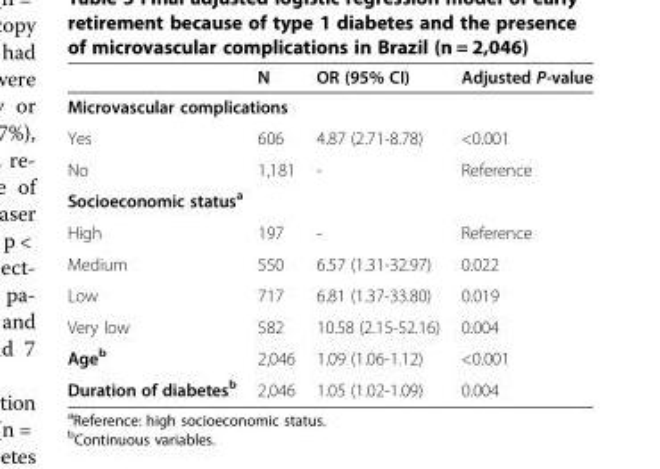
<table><thead><tr><td></td><td>N</td><td>OR (95% CI)</td><td>Adjusted P-value</td></tr></thead><tbody><tr><td colspan="4">Microvascular complications</td></tr><tr><td>Yes</td><td>606</td><td>4.87 (2.71-8.78)</td><td>&lt;0.001</td></tr><tr><td>No</td><td>1,181</td><td>-</td><td>Reference</td></tr><tr><td colspan="4">Socioeconomic status<sup>a</sup></td></tr><tr><td>High</td><td>197</td><td>-</td><td>Reference</td></tr><tr><td>Medium</td><td>550</td><td>6.57 (1.31-32.97)</td><td>0.022</td></tr><tr><td>Low</td><td>717</td><td>6.81 (1.37-33.80)</td><td>0.019</td></tr><tr><td>Very low</td><td>582</td><td>10.58 (2.15-52.16)</td><td>0.004</td></tr><tr><td>Age<sup>b</sup></td><td>2,046</td><td>1.09 (1.06-1.12)</td><td>&lt;0.001</td></tr><tr><td>Duration of diabetes<sup>b</sup></td><td>2,046</td><td>1.05 (1.02-1.09)</td><td>0.004</td></tr></tbody></table>